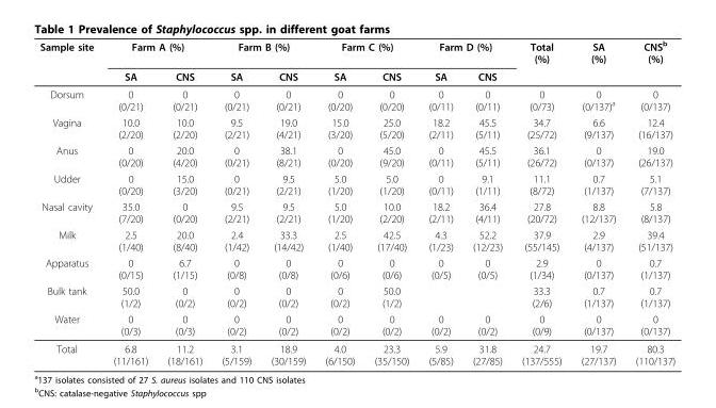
<table><thead><tr><td rowspan="2">Sample site</td><td colspan="2">Farm A (%)</td><td colspan="2">Farm B (%)</td><td colspan="2">Farm C (%)</td><td colspan="2">Farm D (%)</td><td rowspan="2">Total (%)</td><td rowspan="2">SA (%)</td><td rowspan="2">CNS<sup>b</sup> (%)</td></tr><tr><td>SA</td><td>CNS</td><td>SA</td><td>CNS</td><td>SA</td><td>CNS</td><td>SA</td><td>CNS</td></tr></thead><tbody><tr><td>Dorsum</td><td>0 (0/21)</td><td>0 (0/21)</td><td>0 (0/21)</td><td>0 (0/21)</td><td>0 (0/20)</td><td>0 (0/20)</td><td>0 (0/11)</td><td>0 (0/11)</td><td>0 (0/73)</td><td>0 (0/137)<sup>a</sup></td><td>0 (0/137)</td></tr><tr><td>Vagina</td><td>10.0 (2/20)</td><td>10.0 (2/20)</td><td>9.5 (2/21)</td><td>19.0 (4/21)</td><td>15.0 (3/20)</td><td>25.0 (5/20)</td><td>18.2 (2/11)</td><td>45.5 (5/11)</td><td>34.7 (25/72)</td><td>6.6 (9/137)</td><td>12.4 (16/137)</td></tr><tr><td>Anus</td><td>0 (0/20)</td><td>20.0 (4/20)</td><td>0 (0/21)</td><td>38.1 (8/21)</td><td>0 (0/20)</td><td>45.0 (9/20)</td><td>0 (0/11)</td><td>45.5 (5/11)</td><td>36.1 (26/72)</td><td>0 (0/137)</td><td>19.0 (26/137)</td></tr><tr><td>Udder</td><td>0 (0/20)</td><td>15.0 (3/20)</td><td>0 (0/21)</td><td>9.5 (2/21)</td><td>5.0 (1/20)</td><td>5.0 (1/20)</td><td>0 (0/11)</td><td>9.1 (1/11)</td><td>11.1 (8/72)</td><td>0.7 (1/137)</td><td>5.1 (7/137)</td></tr><tr><td>Nasal cavity</td><td>35.0 (7/20)</td><td>0 (0/20)</td><td>9.5 (2/21)</td><td>9.5 (2/21)</td><td>5.0 (1/20)</td><td>10.0 (2/20)</td><td>18.2 (2/11)</td><td>36.4 (4/11)</td><td>27.8 (20/72)</td><td>8.8 (12/137)</td><td>5.8 (8/137)</td></tr><tr><td>Milk</td><td>2.5 (1/40)</td><td>20.0 (8/40)</td><td>2.4 (1/42)</td><td>33.3 (14/42)</td><td>2.5 (1/40)</td><td>42.5 (17/40)</td><td>4.3 (1/23)</td><td>52.2 (12/23)</td><td>37.9 (55/145)</td><td>2.9 (4/137)</td><td>39.4 (51/137)</td></tr><tr><td>Apparatus</td><td>0 (0/15)</td><td>6.7 (1/15)</td><td>0 (0/8)</td><td>0 (0/8)</td><td>0 (0/6)</td><td>0 (0/6)</td><td>0 (0/5)</td><td>0 (0/5)</td><td>2.9 (1/34)</td><td>0 (0/137)</td><td>0.7 (1/137)</td></tr><tr><td>Bulk tank</td><td>50.0 (1/2)</td><td>0 (0/2)</td><td>0 (0/2)</td><td>0 (0/2)</td><td>0 (0/2)</td><td>50.0 (1/2)</td><td></td><td></td><td>33.3 (2/6)</td><td>0.7 (1/137)</td><td>0.7 (1/137)</td></tr><tr><td>Water</td><td>0 (0/3)</td><td>0 (0/3)</td><td>0 (0/2)</td><td>0 (0/2)</td><td>0 (0/2)</td><td>0 (0/2)</td><td>0 (0/2)</td><td>0 (0/2)</td><td>0 (0/9)</td><td>0 (0/137)</td><td>0 (0/137)</td></tr><tr><td>Total</td><td>6.8 (11/161)</td><td>11.2 (18/161)</td><td>3.1 (5/159)</td><td>18.9 (30/159)</td><td>4.0 (6/150)</td><td>23.3 (35/150)</td><td>5.9 (5/85)</td><td>31.8 (27/85)</td><td>24.7 (137/555)</td><td>19.7 (27/137)</td><td>80.3 (110/137)</td></tr></tbody></table>